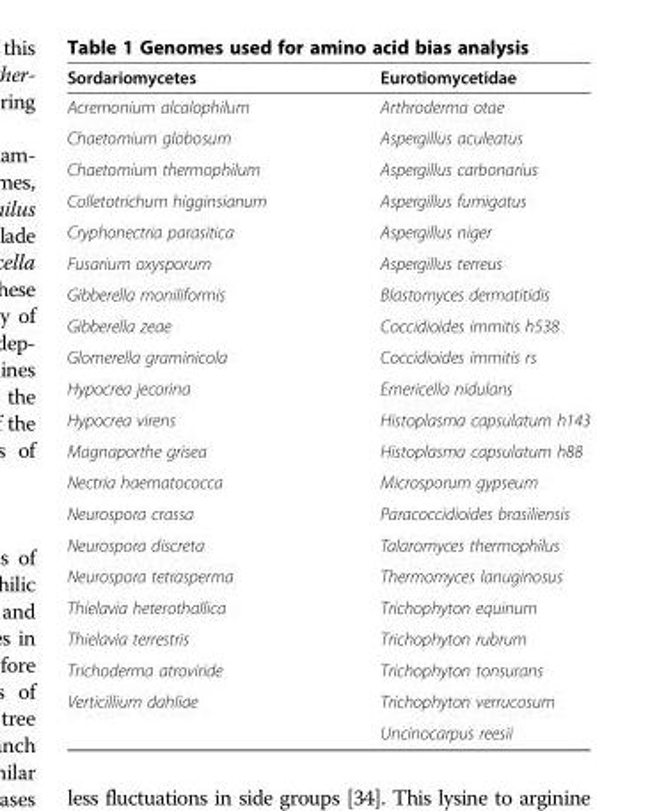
<table><thead><tr><td>Sordariomycetes</td><td>Eurotiomycetidae</td></tr></thead><tbody><tr><td>Acremonium alcalophilum</td><td>Arthroderma otae</td></tr><tr><td>Chaetomium globosum</td><td>Aspergillus aculeatus</td></tr><tr><td>Chaetomium thermophilum</td><td>Aspergillus carbonarius</td></tr><tr><td>Colletotrichum higginsianum</td><td>Aspergillus fumigatus</td></tr><tr><td>Cryphonectria parasitica</td><td>Aspergillus niger</td></tr><tr><td>Fusarium oxysporum</td><td>Aspergillus terreus</td></tr><tr><td>Gibberella moniliformis</td><td>Blastomyces dermatitidis</td></tr><tr><td>Gibberella zeae</td><td>Coccidioides immitis h538</td></tr><tr><td>Glomerella graminicola</td><td>Coccidioides immitis rs</td></tr><tr><td>Hypocrea jecorina</td><td>Emericella nidulans</td></tr><tr><td>Hypocrea virens</td><td>Histoplasma capsulatum h143</td></tr><tr><td>Magnaporthe grisea</td><td>Histoplasma capsulatum h88</td></tr><tr><td>Nectria haematococca</td><td>Microsporum gypseum</td></tr><tr><td>Neurospora crassa</td><td>Paracoccidioides brasiliensis</td></tr><tr><td>Neurospora discreta</td><td>Talaromyces thermophilus</td></tr><tr><td>Neurospora tetrasperma</td><td>Thermomyces lanuginosus</td></tr><tr><td>Thielavia heterothallica</td><td>Trichophyton equinum</td></tr><tr><td>Thielavia terrestris</td><td>Trichophyton rubrum</td></tr><tr><td>Trichoderma atroviride</td><td>Trichophyton tonsurans</td></tr><tr><td rowspan="2">Verticillium dahliae</td><td>Trichophyton verrucosum</td></tr><tr><td>Uncinocarpus reesii</td></tr></tbody></table>